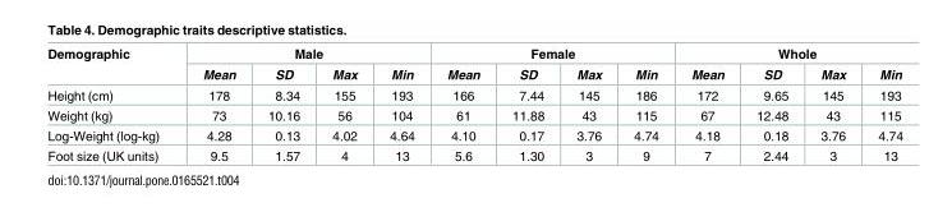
<table><thead><tr><td rowspan="2">Demographic</td><td colspan="4">Male</td><td colspan="4">Female</td><td colspan="4">Whole</td></tr><tr><td>Mean</td><td>SD</td><td>Max</td><td>Min</td><td>Mean</td><td>SD</td><td>Max</td><td>Min</td><td>Mean</td><td>SD</td><td>Max</td><td>Min</td></tr></thead><tbody><tr><td>Height (cm)</td><td>178</td><td>8.34</td><td>155</td><td>193</td><td>166</td><td>7.44</td><td>145</td><td>186</td><td>172</td><td>9.65</td><td>145</td><td>193</td></tr><tr><td>Weight (kg)</td><td>73</td><td>10.16</td><td>56</td><td>104</td><td>61</td><td>11.88</td><td>43</td><td>115</td><td>67</td><td>12.48</td><td>43</td><td>115</td></tr><tr><td>Log-Weight (log-kg)</td><td>4.28</td><td>0.13</td><td>4.02</td><td>4.64</td><td>4.10</td><td>0.17</td><td>3.76</td><td>4.74</td><td>4.18</td><td>0.18</td><td>3.76</td><td>4.74</td></tr><tr><td>Foot size (UK units)</td><td>9.5</td><td>1.57</td><td>4</td><td>13</td><td>5.6</td><td>1.30</td><td>3</td><td>9</td><td>7</td><td>2.44</td><td>3</td><td>13</td></tr></tbody></table>